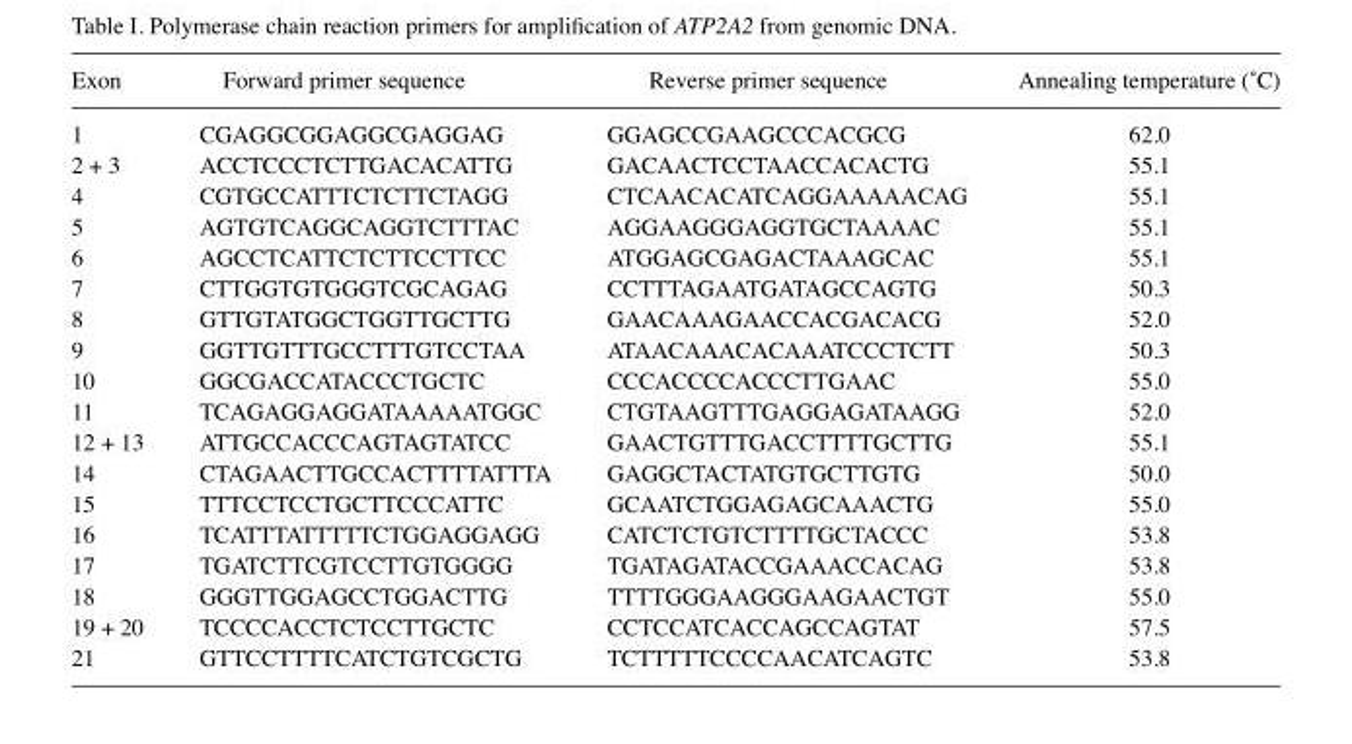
<table><thead><tr><td>Exon</td><td>Forward primer sequence</td><td>Reverse primer sequence</td><td>Annealing temperature (˚C)</td></tr></thead><tbody><tr><td>1</td><td>CGAGGCGGAGGCGAGGAG</td><td>GGAGCCGAAGCCCACGCG</td><td>62.0</td></tr><tr><td>2 + 3</td><td>ACCTCCCTCTTGACACATTG</td><td>GACAACTCCTAACCACACTG</td><td>55.1</td></tr><tr><td>4</td><td>CGTGCCATTTCTCTTCTAGG</td><td>CTCAACACATCAGGAAAAACAG</td><td>55.1</td></tr><tr><td>5</td><td>AGTGTCAGGCAGGTCTTTAC</td><td>AGGAAGGGAGGTGCTAAAAC</td><td>55.1</td></tr><tr><td>6</td><td>AGCCTCATTCTCTTCCTTCC</td><td>ATGGAGCGAGACTAAAGCAC</td><td>55.1</td></tr><tr><td>7</td><td>CTTGGTGTGGGTCGCAGAG</td><td>CCTTTAGAATGATAGCCAGTG</td><td>50.3</td></tr><tr><td>8</td><td>GTTGTATGGCTGGTTGCTTG</td><td>GAACAAAGAACCACGACACG</td><td>52.0</td></tr><tr><td>9</td><td>GGTTGTTTGCCTTTGTCCTAA</td><td>ATAACAAACACAAATCCCTCTT</td><td>50.3</td></tr><tr><td>10</td><td>GGCGACCATACCCTGCTC</td><td>CCCACCCCACCCTTGAAC</td><td>55.0</td></tr><tr><td>11</td><td>TCAGAGGAGGATAAAAATGGC</td><td>CTGTAAGTTTGAGGAGATAAGG</td><td>52.0</td></tr><tr><td>12 + 13</td><td>ATTGCCACCCAGTAGTATCC</td><td>GAACTGTTTGACCTTTTGCTTG</td><td>55.1</td></tr><tr><td>14</td><td>CTAGAACTTGCCACTTTTATTTA</td><td>GAGGCTACTATGTGCTTGTG</td><td>50.0</td></tr><tr><td>15</td><td>TTTCCTCCTGCTTCCCATTC</td><td>GCAATCTGGAGAGCAAACTG</td><td>55.0</td></tr><tr><td>16</td><td>TCATTTATTTTTCTGGAGGAGG</td><td>CATCTCTGTCTTTTGCTACCC</td><td>53.8</td></tr><tr><td>17</td><td>TGATCTTCGTCCTTGTGGGG</td><td>TGATAGATACCGAAACCACAG</td><td>53.8</td></tr><tr><td>18</td><td>GGGTTGGAGCCTGGACTTG</td><td>TTTTGGGAAGGGAAGAACTGT</td><td>55.0</td></tr><tr><td>19 + 20</td><td>TCCCCACCTCTCCTTGCTC</td><td>CCTCCATCACCAGCCAGTAT</td><td>57.5</td></tr><tr><td>21</td><td>GTTCCTTTTCATCTGTCGCTG</td><td>TCTTTTTCCCCAACATCAGTC</td><td>53.8</td></tr></tbody></table>